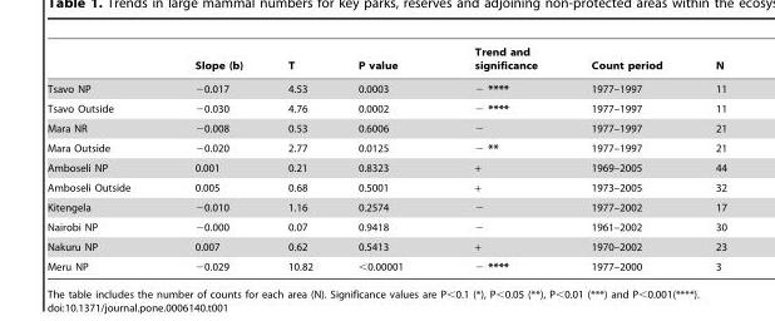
<table><thead><tr><td></td><td>Slope (b)</td><td>T</td><td>P value</td><td>Trend and significance</td><td>Count period</td><td>N</td></tr></thead><tbody><tr><td>Tsavo NP</td><td>−0.017</td><td>4.53</td><td>0.0003</td><td>− ****</td><td>1977–1997</td><td>11</td></tr><tr><td>Tsavo Outside</td><td>−0.030</td><td>4.76</td><td>0.0002</td><td>− ****</td><td>1977–1997</td><td>11</td></tr><tr><td>Mara NR</td><td>−0.008</td><td>0.53</td><td>0.6006</td><td>−</td><td>1977–1997</td><td>21</td></tr><tr><td>Mara Outside</td><td>−0.020</td><td>2.77</td><td>0.0125</td><td>− **</td><td>1977–1997</td><td>21</td></tr><tr><td>Amboseli NP</td><td>0.001</td><td>0.21</td><td>0.8323</td><td>+</td><td>1969–2005</td><td>44</td></tr><tr><td>Amboseli Outside</td><td>0.005</td><td>0.68</td><td>0.5001</td><td>+</td><td>1973–2005</td><td>32</td></tr><tr><td>Kitengela</td><td>−0.010</td><td>1.16</td><td>0.2574</td><td>−</td><td>1977–2002</td><td>17</td></tr><tr><td>Nairobi NP</td><td>−0.000</td><td>0.07</td><td>0.9418</td><td>−</td><td>1961–2002</td><td>30</td></tr><tr><td>Nakuru NP</td><td>0.007</td><td>0.62</td><td>0.5413</td><td>+</td><td>1970–2002</td><td>23</td></tr><tr><td>Meru NP</td><td>−0.029</td><td>10.82</td><td>&lt;0.00001</td><td>− ****</td><td>1977–2000</td><td>3</td></tr></tbody></table>